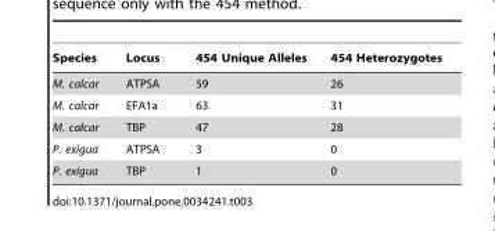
<table><thead><tr><td>Species</td><td>Locus</td><td>454 Unique Alleles</td><td>454 Heterozygotes</td></tr></thead><tbody><tr><td>M. calcar</td><td>ATPSA</td><td>59</td><td>26</td></tr><tr><td>M. calcar</td><td>EFA1a</td><td>63</td><td>31</td></tr><tr><td>M. calcar</td><td>TBP</td><td>47</td><td>28</td></tr><tr><td>P. exigua</td><td>ATPSA</td><td>3</td><td>0</td></tr><tr><td>P. exigua</td><td>TBP</td><td>1</td><td>0</td></tr></tbody></table>